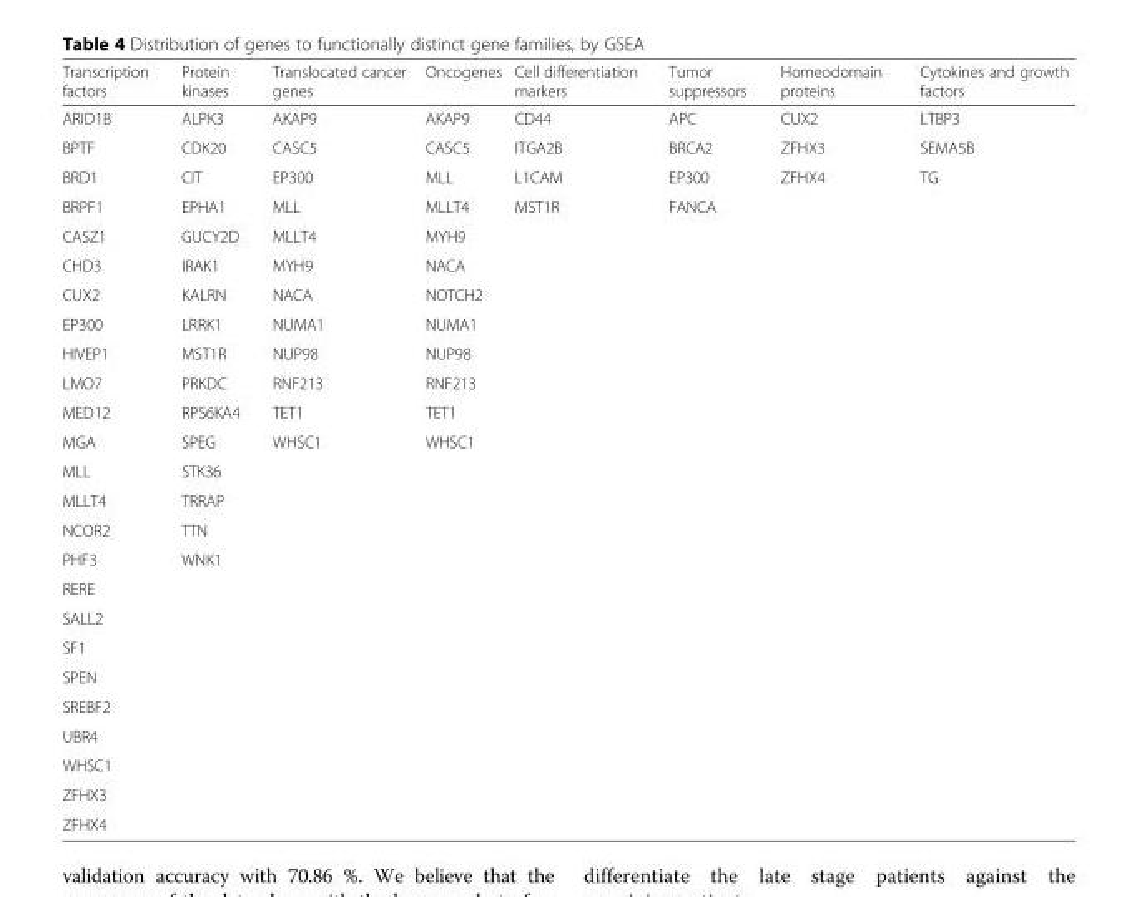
<table><thead><tr><td>Transcription factors</td><td>Protein kinases</td><td>Translocated cancer genes</td><td>Oncogenes</td><td>Cell differentiation markers</td><td>Tumor suppressors</td><td>Homeodomain proteins</td><td>Cytokines and growth factors</td></tr></thead><tbody><tr><td>ARID1B</td><td>ALPK3</td><td>AKAP9</td><td>AKAP9</td><td>CD44</td><td>APC</td><td>CUX2</td><td>LTBP3</td></tr><tr><td>BPTF</td><td>CDK20</td><td>CASC5</td><td>CASC5</td><td>ITGA2B</td><td>BRCA2</td><td>ZFHX3</td><td>SEMA5B</td></tr><tr><td>BRD1</td><td>CIT</td><td>EP300</td><td>MLL</td><td>L1CAM</td><td>EP300</td><td>ZFHX4</td><td>TG</td></tr><tr><td>BRPF1</td><td>EPHA1</td><td>MLL</td><td>MLLT4</td><td>MST1R</td><td>FANCA</td><td></td><td></td></tr><tr><td>CASZ1</td><td>GUCY2D</td><td>MLLT4</td><td>MYH9</td><td></td><td></td><td></td><td></td></tr><tr><td>CHD3</td><td>IRAK1</td><td>MYH9</td><td>NACA</td><td></td><td></td><td></td><td></td></tr><tr><td>CUX2</td><td>KALRN</td><td>NACA</td><td>NOTCH2</td><td></td><td></td><td></td><td></td></tr><tr><td>EP300</td><td>LRRK1</td><td>NUMA1</td><td>NUMA1</td><td></td><td></td><td></td><td></td></tr><tr><td>HIVEP1</td><td>MST1R</td><td>NUP98</td><td>NUP98</td><td></td><td></td><td></td><td></td></tr><tr><td>LMO7</td><td>PRKDC</td><td>RNF213</td><td>RNF213</td><td></td><td></td><td></td><td></td></tr><tr><td>MED12</td><td>RPS6KA4</td><td>TET1</td><td>TET1</td><td></td><td></td><td></td><td></td></tr><tr><td>MGA</td><td>SPEG</td><td>WHSC1</td><td>WHSC1</td><td></td><td></td><td></td><td></td></tr><tr><td>MLL</td><td>STK36</td><td></td><td></td><td></td><td></td><td></td><td></td></tr><tr><td>MLLT4</td><td>TRRAP</td><td></td><td></td><td></td><td></td><td></td><td></td></tr><tr><td>NCOR2</td><td>TTN</td><td></td><td></td><td></td><td></td><td></td><td></td></tr><tr><td>PHF3</td><td>WNK1</td><td></td><td></td><td></td><td></td><td></td><td></td></tr><tr><td colspan="8">RERE</td></tr><tr><td colspan="8">SALL2</td></tr><tr><td colspan="8">SF1</td></tr><tr><td colspan="8">SPEN</td></tr><tr><td colspan="8">SREBF2</td></tr><tr><td colspan="8">UBR4</td></tr><tr><td colspan="8">WHSC1</td></tr><tr><td colspan="8">ZFHX3</td></tr><tr><td>ZFHX4</td><td></td><td></td><td></td><td></td><td></td><td></td><td></td></tr></tbody></table>